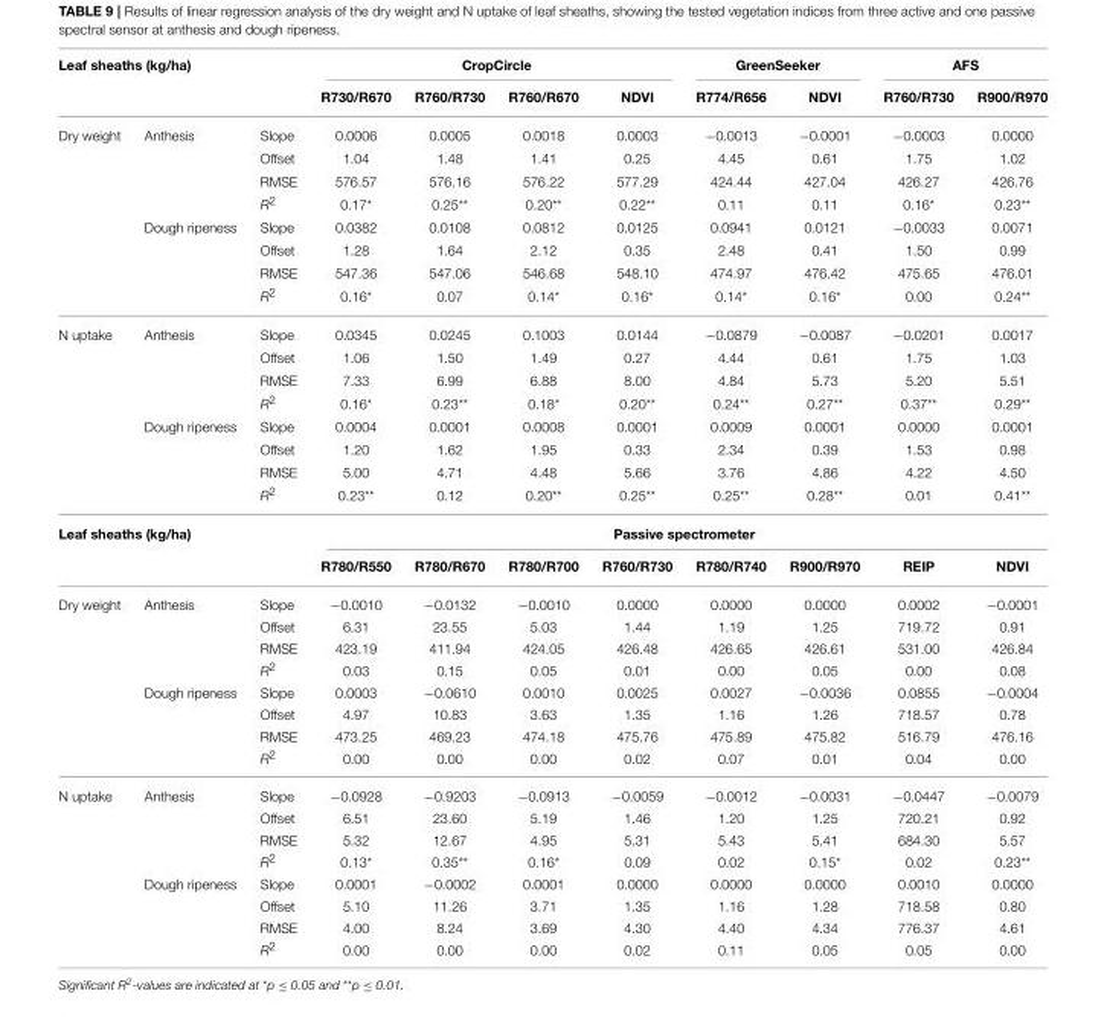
<table><thead><tr><td colspan="3">Leaf sheaths (kg/ha)</td><td colspan="4">CropCircle</td><td colspan="2">GreenSeeker</td><td colspan="2">AFS</td></tr><tr><td></td><td></td><td></td><td>R730/R670</td><td>R760/R730</td><td>R760/R670</td><td>NDVI</td><td>R774/R656</td><td>NDVI</td><td>R760/R730</td><td>R900/R970</td></tr></thead><tbody><tr><td rowspan="8">Dry weight</td><td>Anthesis</td><td>Slope</td><td>0.0006</td><td>0.0005</td><td>0.0018</td><td>0.0003</td><td>−0.0013</td><td>−0.0001</td><td>−0.0003</td><td>0.0000</td></tr><tr><td></td><td>Offset</td><td>1.04</td><td>1.48</td><td>1.41</td><td>0.25</td><td>4.45</td><td>0.61</td><td>1.75</td><td>1.02</td></tr><tr><td></td><td>RMSE</td><td>576.57</td><td>576.16</td><td>576.22</td><td>577.29</td><td>424.44</td><td>427.04</td><td>426.27</td><td>426.76</td></tr><tr><td></td><td>R<sup>2</sup></td><td>0.17*</td><td>0.25**</td><td>0.20**</td><td>0.22**</td><td>0.11</td><td>0.11</td><td>0.16*</td><td>0.23**</td></tr><tr><td>Dough ripeness</td><td>Slope</td><td>0.0382</td><td>0.0108</td><td>0.0812</td><td>0.0125</td><td>0.0941</td><td>0.0121</td><td>−0.0033</td><td>0.0071</td></tr><tr><td></td><td>Offset</td><td>1.28</td><td>1.64</td><td>2.12</td><td>0.35</td><td>2.48</td><td>0.41</td><td>1.50</td><td>0.99</td></tr><tr><td></td><td>RMSE</td><td>547.36</td><td>547.06</td><td>546.68</td><td>548.10</td><td>474.97</td><td>476.42</td><td>475.65</td><td>476.01</td></tr><tr><td></td><td>R<sup>2</sup></td><td>0.16*</td><td>0.07</td><td>0.14*</td><td>0.16*</td><td>0.14*</td><td>0.16*</td><td>0.00</td><td>0.24**</td></tr><tr><td rowspan="8">N uptake</td><td>Anthesis</td><td>Slope</td><td>0.0345</td><td>0.0245</td><td>0.1003</td><td>0.0144</td><td>−0.0879</td><td>−0.0087</td><td>−0.0201</td><td>0.0017</td></tr><tr><td></td><td>Offset</td><td>1.06</td><td>1.50</td><td>1.49</td><td>0.27</td><td>4.44</td><td>0.61</td><td>1.75</td><td>1.03</td></tr><tr><td></td><td>RMSE</td><td>7.33</td><td>6.99</td><td>6.88</td><td>8.00</td><td>4.84</td><td>5.73</td><td>5.20</td><td>5.51</td></tr><tr><td></td><td>R<sup>2</sup></td><td>0.16*</td><td>0.23**</td><td>0.18*</td><td>0.20**</td><td>0.24**</td><td>0.27**</td><td>0.37**</td><td>0.29**</td></tr><tr><td>Dough ripeness</td><td>Slope</td><td>0.0004</td><td>0.0001</td><td>0.0008</td><td>0.0001</td><td>0.0009</td><td>0.0001</td><td>0.0000</td><td>0.0001</td></tr><tr><td></td><td>Offset</td><td>1.20</td><td>1.62</td><td>1.95</td><td>0.33</td><td>2.34</td><td>0.39</td><td>1.53</td><td>0.98</td></tr><tr><td></td><td>RMSE</td><td>5.00</td><td>4.71</td><td>4.48</td><td>5.66</td><td>3.76</td><td>4.86</td><td>4.22</td><td>4.50</td></tr><tr><td></td><td>R<sup>2</sup></td><td>0.23**</td><td>0.12</td><td>0.20**</td><td>0.25**</td><td>0.25**</td><td>0.28**</td><td>0.01</td><td>0.41**</td></tr><tr><td colspan="3">Leaf sheaths (kg/ha)</td><td colspan="8">Passive spectrometer</td></tr><tr><td></td><td></td><td></td><td>R780/R550</td><td>R780/R670</td><td>R780/R700</td><td>R760/R730</td><td>R780/R740</td><td>R900/R970</td><td>REIP</td><td>NDVI</td></tr><tr><td rowspan="8">Dry weight</td><td>Anthesis</td><td>Slope</td><td>−0.0010</td><td>−0.0132</td><td>−0.0010</td><td>0.0000</td><td>0.0000</td><td>0.0000</td><td>0.0002</td><td>−0.0001</td></tr><tr><td></td><td>Offset</td><td>6.31</td><td>23.55</td><td>5.03</td><td>1.44</td><td>1.19</td><td>1.25</td><td>719.72</td><td>0.91</td></tr><tr><td></td><td>RMSE</td><td>423.19</td><td>411.94</td><td>424.05</td><td>426.48</td><td>426.65</td><td>426.61</td><td>531.00</td><td>426.84</td></tr><tr><td></td><td>R<sup>2</sup></td><td>0.03</td><td>0.15</td><td>0.05</td><td>0.01</td><td>0.00</td><td>0.05</td><td>0.00</td><td>0.08</td></tr><tr><td>Dough ripeness</td><td>Slope</td><td>0.0003</td><td>−0.0610</td><td>0.0010</td><td>0.0025</td><td>0.0027</td><td>−0.0036</td><td>0.0855</td><td>−0.0004</td></tr><tr><td></td><td>Offset</td><td>4.97</td><td>10.83</td><td>3.63</td><td>1.35</td><td>1.16</td><td>1.26</td><td>718.57</td><td>0.78</td></tr><tr><td></td><td>RMSE</td><td>473.25</td><td>469.23</td><td>474.18</td><td>475.76</td><td>475.89</td><td>475.82</td><td>516.79</td><td>476.16</td></tr><tr><td></td><td>R<sup>2</sup></td><td>0.00</td><td>0.00</td><td>0.00</td><td>0.02</td><td>0.07</td><td>0.01</td><td>0.04</td><td>0.00</td></tr><tr><td rowspan="8">N uptake</td><td>Anthesis</td><td>Slope</td><td>−0.0928</td><td>−0.9203</td><td>−0.0913</td><td>−0.0059</td><td>−0.0012</td><td>−0.0031</td><td>−0.0447</td><td>−0.0079</td></tr><tr><td></td><td>Offset</td><td>6.51</td><td>23.60</td><td>5.19</td><td>1.46</td><td>1.20</td><td>1.25</td><td>720.21</td><td>0.92</td></tr><tr><td></td><td>RMSE</td><td>5.32</td><td>12.67</td><td>4.95</td><td>5.31</td><td>5.43</td><td>5.41</td><td>684.30</td><td>5.57</td></tr><tr><td></td><td>R<sup>2</sup></td><td>0.13*</td><td>0.35**</td><td>0.16*</td><td>0.09</td><td>0.02</td><td>0.15*</td><td>0.02</td><td>0.23**</td></tr><tr><td>Dough ripeness</td><td>Slope</td><td>0.0001</td><td>−0.0002</td><td>0.0001</td><td>0.0000</td><td>0.0000</td><td>0.0000</td><td>0.0010</td><td>0.0000</td></tr><tr><td></td><td>Offset</td><td>5.10</td><td>11.26</td><td>3.71</td><td>1.35</td><td>1.16</td><td>1.28</td><td>718.58</td><td>0.80</td></tr><tr><td></td><td>RMSE</td><td>4.00</td><td>8.24</td><td>3.69</td><td>4.30</td><td>4.40</td><td>4.34</td><td>776.37</td><td>4.61</td></tr><tr><td></td><td>R<sup>2</sup></td><td>0.00</td><td>0.00</td><td>0.00</td><td>0.02</td><td>0.11</td><td>0.05</td><td>0.05</td><td>0.00</td></tr></tbody></table>